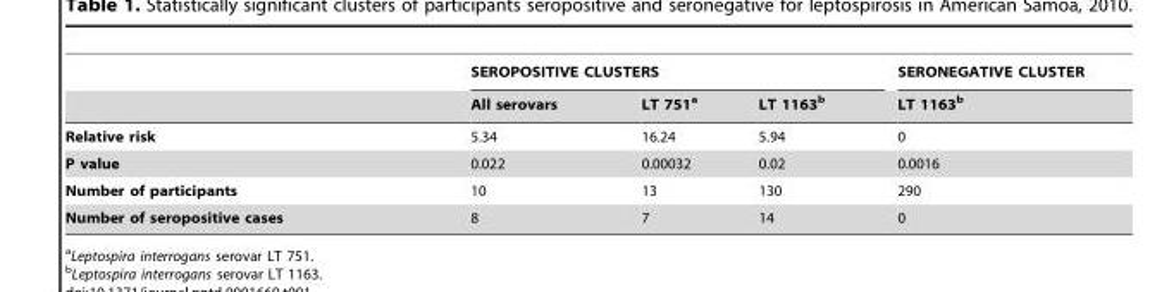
<table><thead><tr><td rowspan="2"></td><td colspan="3">SEROPOSITIVE CLUSTERS</td><td rowspan="2">SERONEGATIVE CLUSTER LT 1163<sup>b</sup></td></tr><tr><td>All serovars</td><td>LT 751<sup>a</sup></td><td>LT 1163<sup>b</sup></td></tr></thead><tbody><tr><td>Relative risk</td><td>5.34</td><td>16.24</td><td>5.94</td><td>0</td></tr><tr><td>P value</td><td>0.022</td><td>0.00032</td><td>0.02</td><td>0.0016</td></tr><tr><td>Number of participants</td><td>10</td><td>13</td><td>130</td><td>290</td></tr><tr><td>Number of seropositive cases</td><td>8</td><td>7</td><td>14</td><td>0</td></tr></tbody></table>